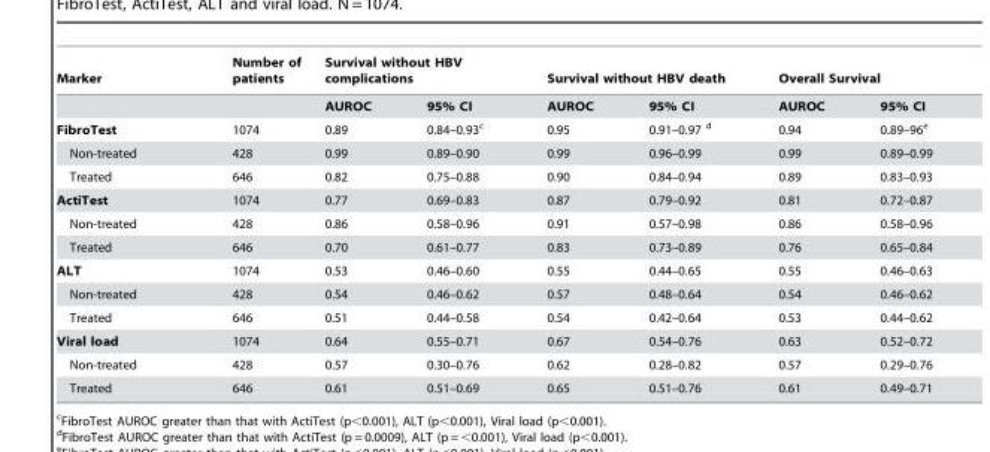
<table><thead><tr><td rowspan="2">Marker</td><td rowspan="2">Number of patients</td><td colspan="2">Survival without HBV complications</td><td colspan="2">Survival without HBV death</td><td colspan="2">Overall Survival</td></tr><tr><td>AUROC</td><td>95% CI</td><td>AUROC</td><td>95% CI</td><td>AUROC</td><td>95% CI</td></tr></thead><tbody><tr><td>FibroTest</td><td>1074</td><td>0.89</td><td>0.84–0.93<sup>c</sup></td><td>0.95</td><td>0.91–0.97 d</td><td>0.94</td><td>0.89–96<sup>e</sup></td></tr><tr><td>Non-treated</td><td>428</td><td>0.99</td><td>0.89–0.90</td><td>0.99</td><td>0.96–0.99</td><td>0.99</td><td>0.89–0.99</td></tr><tr><td>Treated</td><td>646</td><td>0.82</td><td>0.75–0.88</td><td>0.90</td><td>0.84–0.94</td><td>0.89</td><td>0.83–0.93</td></tr><tr><td>ActiTest</td><td>1074</td><td>0.77</td><td>0.69–0.83</td><td>0.87</td><td>0.79–0.92</td><td>0.81</td><td>0.72–0.87</td></tr><tr><td>Non-treated</td><td>428</td><td>0.86</td><td>0.58–0.96</td><td>0.91</td><td>0.57–0.98</td><td>0.86</td><td>0.58–0.96</td></tr><tr><td>Treated</td><td>646</td><td>0.70</td><td>0.61–0.77</td><td>0.83</td><td>0.73–0.89</td><td>0.76</td><td>0.65–0.84</td></tr><tr><td>ALT</td><td>1074</td><td>0.53</td><td>0.46–0.60</td><td>0.55</td><td>0.44–0.65</td><td>0.55</td><td>0.46–0.63</td></tr><tr><td>Non-treated</td><td>428</td><td>0.54</td><td>0.46–0.62</td><td>0.57</td><td>0.48–0.64</td><td>0.54</td><td>0.46–0.62</td></tr><tr><td>Treated</td><td>646</td><td>0.51</td><td>0.44–0.58</td><td>0.54</td><td>0.42–0.64</td><td>0.53</td><td>0.44–0.62</td></tr><tr><td>Viral load</td><td>1074</td><td>0.64</td><td>0.55–0.71</td><td>0.67</td><td>0.54–0.76</td><td>0.63</td><td>0.52–0.72</td></tr><tr><td>Non-treated</td><td>428</td><td>0.57</td><td>0.30–0.76</td><td>0.62</td><td>0.28–0.82</td><td>0.57</td><td>0.29–0.76</td></tr><tr><td>Treated</td><td>646</td><td>0.61</td><td>0.51–0.69</td><td>0.65</td><td>0.51–0.76</td><td>0.61</td><td>0.49–0.71</td></tr></tbody></table>